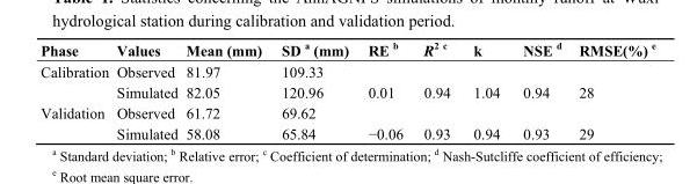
<table><thead><tr><td>Phase</td><td>Values</td><td>Mean (mm)</td><td>SD <sup>a</sup> (mm)</td><td>RE <sup>b</sup></td><td>R<sup>2 c</sup></td><td>k</td><td>NSE <sup>d</sup></td><td>RMSE(%) <sup>e</sup></td></tr></thead><tbody><tr><td rowspan="2">Calibration</td><td>Observed</td><td>81.97</td><td>109.33</td><td></td><td></td><td></td><td></td><td></td></tr><tr><td>Simulated</td><td>82.05</td><td>120.96</td><td>0.01</td><td>0.94</td><td>1.04</td><td>0.94</td><td>28</td></tr><tr><td rowspan="2">Validation</td><td>Observed</td><td>61.72</td><td>69.62</td><td></td><td></td><td></td><td></td><td></td></tr><tr><td>Simulated</td><td>58.08</td><td>65.84</td><td>−0.06</td><td>0.93</td><td>0.94</td><td>0.93</td><td>29</td></tr></tbody></table>